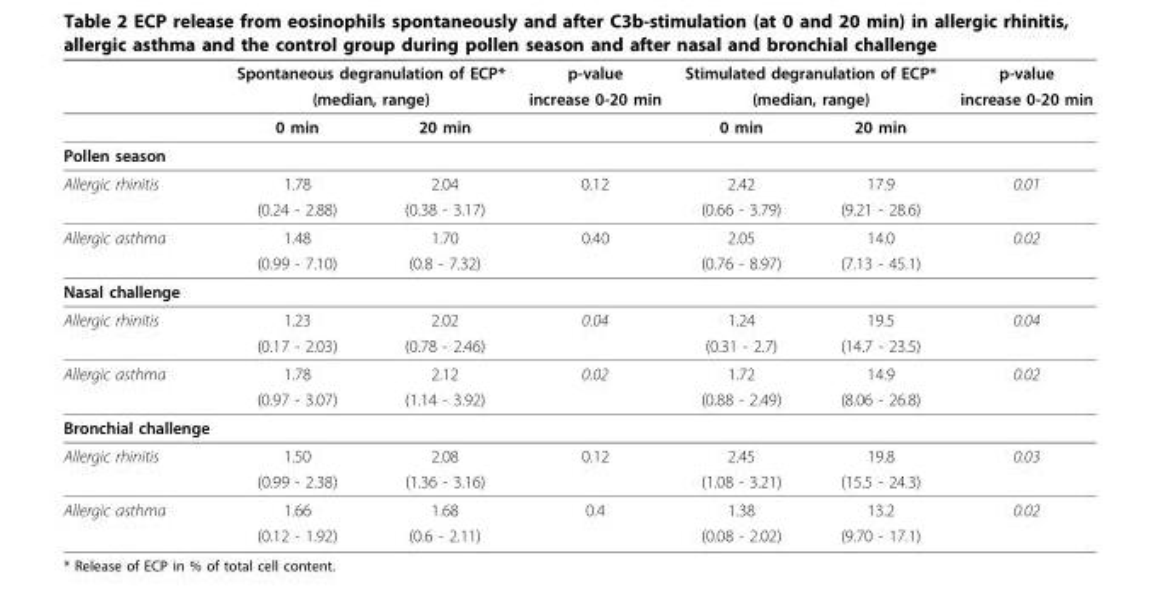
<table><thead><tr><td rowspan="3"></td><td rowspan="2" colspan="2">Spontaneous degranulation of ECP* (median, range)</td><td rowspan="3">p-value increase 0-20 min</td><td rowspan="2" colspan="2">Stimulated degranulation of ECP* (median, range)</td><td rowspan="3">p-value increase 0-20 min</td></tr><tr></tr><tr><td>0 min</td><td>20 min</td><td>0 min</td><td>20 min</td></tr></thead><tbody><tr><td colspan="7">Pollen season</td></tr><tr><td rowspan="2">Allergic rhinitis</td><td>1.78</td><td>2.04</td><td>0.12</td><td>2.42</td><td>17.9</td><td>0.01</td></tr><tr><td>(0.24 - 2.88)</td><td>(0.38 - 3.17)</td><td></td><td>(0.66 - 3.79)</td><td>(9.21 - 28.6)</td><td></td></tr><tr><td rowspan="2">Allergic asthma</td><td>1.48</td><td>1.70</td><td>0.40</td><td>2.05</td><td>14.0</td><td>0.02</td></tr><tr><td>(0.99 - 7.10)</td><td>(0.8 - 7.32)</td><td></td><td>(0.76 - 8.97)</td><td>(7.13 - 45.1)</td><td></td></tr><tr><td colspan="7">Nasal challenge</td></tr><tr><td rowspan="2">Allergic rhinitis</td><td>1.23</td><td>2.02</td><td>0.04</td><td>1.24</td><td>19.5</td><td>0.04</td></tr><tr><td>(0.17 - 2.03)</td><td>(0.78 - 2.46)</td><td></td><td>(0.31 - 2.7)</td><td>(14.7 - 23.5)</td><td></td></tr><tr><td rowspan="2">Allergic asthma</td><td>1.78</td><td>2.12</td><td>0.02</td><td>1.72</td><td>14.9</td><td>0.02</td></tr><tr><td>(0.97 - 3.07)</td><td>(1.14 - 3.92)</td><td></td><td>(0.88 - 2.49)</td><td>(8.06 - 26.8)</td><td></td></tr><tr><td colspan="7">Bronchial challenge</td></tr><tr><td rowspan="2">Allergic rhinitis</td><td>1.50</td><td>2.08</td><td>0.12</td><td>2.45</td><td>19.8</td><td>0.03</td></tr><tr><td>(0.99 - 2.38)</td><td>(1.36 - 3.16)</td><td></td><td>(1.08 - 3.21)</td><td>(15.5 - 24.3)</td><td></td></tr><tr><td rowspan="2">Allergic asthma</td><td>1.66</td><td>1.68</td><td>0.4</td><td>1.38</td><td>13.2</td><td>0.02</td></tr><tr><td>(0.12 - 1.92)</td><td>(0.6 - 2.11)</td><td></td><td>(0.08 - 2.02)</td><td>(9.70 - 17.1)</td><td></td></tr></tbody></table>